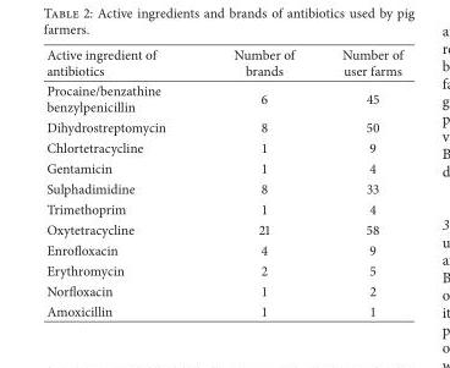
<table><thead><tr><td>Active ingredient of antibiotics</td><td>Number of brands</td><td>Number of user farms</td></tr></thead><tbody><tr><td>Procaine/benzathine benzylpenicillin</td><td>6</td><td>45</td></tr><tr><td>Dihydrostreptomycin</td><td>8</td><td>50</td></tr><tr><td>Chlortetracycline</td><td>1</td><td>9</td></tr><tr><td>Gentamicin</td><td>1</td><td>4</td></tr><tr><td>Sulphadimidine</td><td>8</td><td>33</td></tr><tr><td>Trimethoprim</td><td>1</td><td>4</td></tr><tr><td>Oxytetracycline</td><td>21</td><td>58</td></tr><tr><td>Enrofloxacin</td><td>4</td><td>9</td></tr><tr><td>Erythromycin</td><td>2</td><td>5</td></tr><tr><td>Norfloxacin</td><td>1</td><td>2</td></tr><tr><td>Amoxicillin</td><td>1</td><td>1</td></tr></tbody></table>